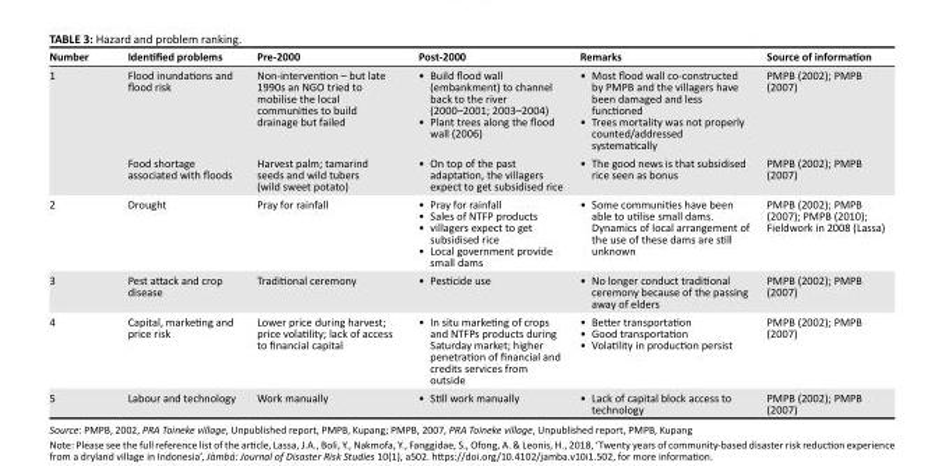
<table><thead><tr><td>Number</td><td>Identified problems</td><td>Pre-2000</td><td>Post-2000</td><td>Remarks</td><td>Source of information</td></tr></thead><tbody><tr><td rowspan="2">1</td><td>Flood inundations and flood risk</td><td>Non-intervention – but late 1990s an NGO tried to mobilise the local communities to build drainage but failed</td><td>• Build flood wall (embankment) to channel back to the river (2000–2001; 2003–2004) • Plant trees along the flood wall (2006)</td><td>• Most flood wall co-constructed by PMPB and the villagers have been damaged and less functioned • Trees mortality was not properly counted/addressed systematically</td><td>PMPB (2002); PMPB (2007)</td></tr><tr><td>Food shortage associated with floods</td><td>Harvest palm; tamarind seeds and wild tubers (wild sweet potato)</td><td>• On top of the past adaptation, the villagers expect to get subsidised rice</td><td>• The good news is that subsidised rice seen as bonus</td><td>PMPB (2002); PMPB (2007)</td></tr><tr><td>2</td><td>Drought</td><td>Pray for rainfall</td><td>• Pray for rainfall • Sales of NTFP products • villagers expect to get subsidised rice • Local government provide small dams</td><td>• Some communities have been able to utilise small dams. Dynamics of local arrangement of the use of these dams are still unknown</td><td>PMPB (2002); PMPB (2007); PMPB (2010); Fieldwork in 2008 (Lassa)</td></tr><tr><td>3</td><td>Pest attack and crop disease</td><td>Traditional ceremony</td><td>• Pesticide use</td><td>• No longer conduct traditional ceremony because of the passing away of elders</td><td>PMPB (2002); PMPB (2007)</td></tr><tr><td>4</td><td>Capital, marketing and price risk</td><td>Lower price during harvest; price volatility; lack of access to financial capital</td><td>• In situ marketing of crops and NTFPs products during Saturday market; higher penetration of financial and credits services from outside</td><td>• Better transportation • Good transportation • Volatility in production persist</td><td>PMPB (2002); PMPB (2007)</td></tr><tr><td>5</td><td>Labour and technology</td><td>Work manually</td><td>• Still work manually</td><td>• Lack of capital block access to technology</td><td>PMPB (2002); PMPB (2007)</td></tr></tbody></table>